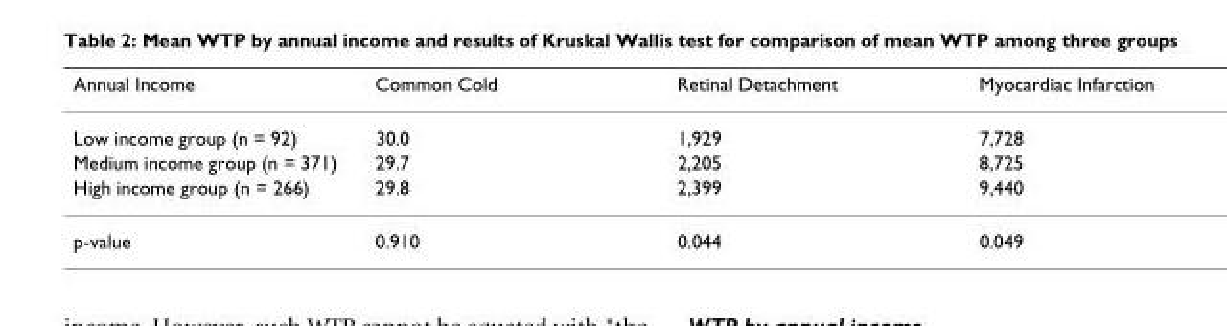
<table><thead><tr><td>Annual Income</td><td>Common Cold</td><td>Retinal Detachment</td><td>Myocardiac Infarction</td></tr></thead><tbody><tr><td>Low income group (n = 92)</td><td>30.0</td><td>1,929</td><td>7,728</td></tr><tr><td>Medium income group (n = 371)</td><td>29.7</td><td>2,205</td><td>8,725</td></tr><tr><td>High income group (n = 266)</td><td>29.8</td><td>2,399</td><td>9,440</td></tr><tr><td>p-value</td><td>0.910</td><td>0.044</td><td>0.049</td></tr></tbody></table>